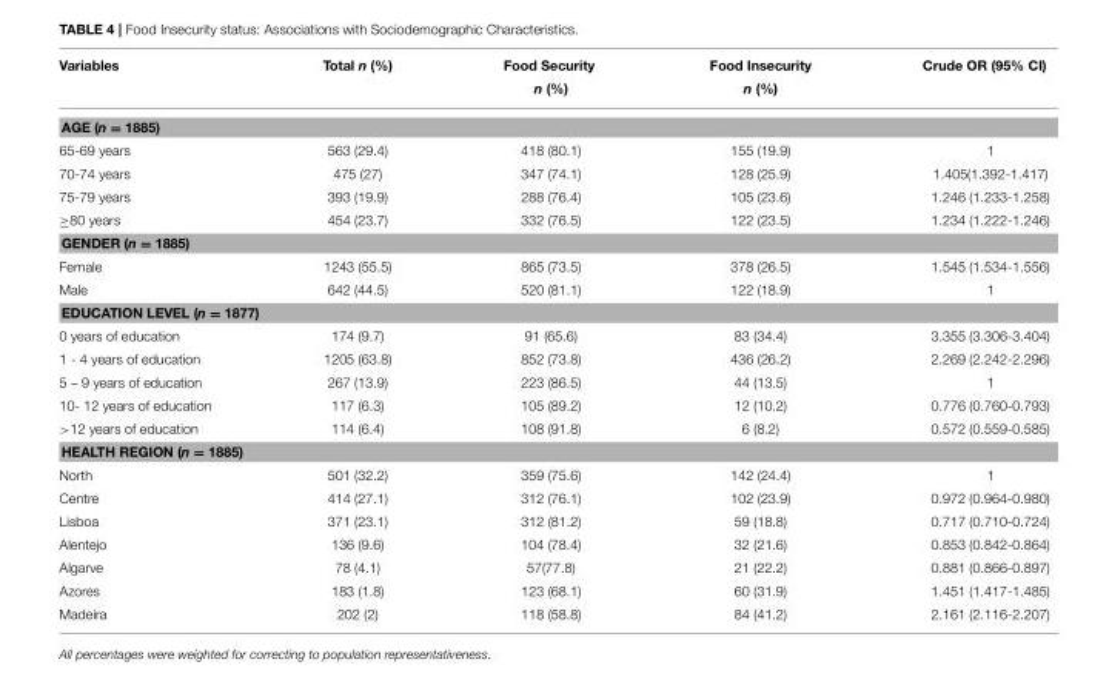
<table><thead><tr><td rowspan="2">Variables</td><td rowspan="2">Total n (%)</td><td rowspan="2">Food Security n (%)</td><td rowspan="2">Food Insecurity n (%)</td><td rowspan="2">Crude OR (95% CI)</td></tr><tr></tr></thead><tbody><tr><td colspan="5">AGE (n = 1885)</td></tr><tr><td>65-69 years</td><td>563 (29.4)</td><td>418 (80.1)</td><td>155 (19.9)</td><td>1</td></tr><tr><td>70-74 years</td><td>475 (27)</td><td>347 (74.1)</td><td>128 (25.9)</td><td>1.405(1.392-1.417)</td></tr><tr><td>75-79 years</td><td>393 (19.9)</td><td>288 (76.4)</td><td>105 (23.6)</td><td>1.246 (1.233-1.258)</td></tr><tr><td>≥80 years</td><td>454 (23.7)</td><td>332 (76.5)</td><td>122 (23.5)</td><td>1.234 (1.222-1.246)</td></tr><tr><td colspan="5">GENDER (n = 1885)</td></tr><tr><td>Female</td><td>1243 (55.5)</td><td>865 (73.5)</td><td>378 (26.5)</td><td>1.545 (1.534-1.556)</td></tr><tr><td>Male</td><td>642 (44.5)</td><td>520 (81.1)</td><td>122 (18.9)</td><td>1</td></tr><tr><td colspan="5">EDUCATION LEVEL (n = 1877)</td></tr><tr><td>0 years of education</td><td>174 (9.7)</td><td>91 (65.6)</td><td>83 (34.4)</td><td>3.355 (3.306-3.404)</td></tr><tr><td>1 - 4 years of education</td><td>1205 (63.8)</td><td>852 (73.8)</td><td>436 (26.2)</td><td>2.269 (2.242-2.296)</td></tr><tr><td>5 – 9 years of education</td><td>267 (13.9)</td><td>223 (86.5)</td><td>44 (13.5)</td><td>1</td></tr><tr><td>10- 12 years of education</td><td>117 (6.3)</td><td>105 (89.2)</td><td>12 (10.2)</td><td>0.776 (0.760-0.793)</td></tr><tr><td>&gt;12 years of education</td><td>114 (6.4)</td><td>108 (91.8)</td><td>6 (8.2)</td><td>0.572 (0.559-0.585)</td></tr><tr><td colspan="5">HEALTH REGION (n = 1885)</td></tr><tr><td>North</td><td>501 (32.2)</td><td>359 (75.6)</td><td>142 (24.4)</td><td>1</td></tr><tr><td>Centre</td><td>414 (27.1)</td><td>312 (76.1)</td><td>102 (23.9)</td><td>0.972 (0.964-0.980)</td></tr><tr><td>Lisboa</td><td>371 (23.1)</td><td>312 (81.2)</td><td>59 (18.8)</td><td>0.717 (0.710-0.724)</td></tr><tr><td>Alentejo</td><td>136 (9.6)</td><td>104 (78.4)</td><td>32 (21.6)</td><td>0.853 (0.842-0.864)</td></tr><tr><td>Algarve</td><td>78 (4.1)</td><td>57(77.8)</td><td>21 (22.2)</td><td>0.881 (0.866-0.897)</td></tr><tr><td>Azores</td><td>183 (1.8)</td><td>123 (68.1)</td><td>60 (31.9)</td><td>1.451 (1.417-1.485)</td></tr><tr><td>Madeira</td><td>202 (2)</td><td>118 (58.8)</td><td>84 (41.2)</td><td>2.161 (2.116-2.207)</td></tr></tbody></table>